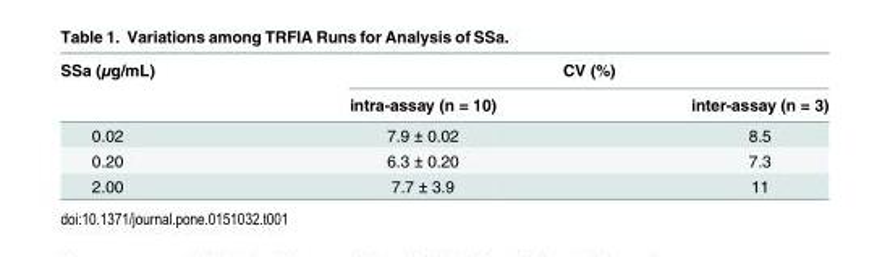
<table><thead><tr><td rowspan="2">SSa (μg/mL)</td><td colspan="2">CV (%)</td></tr><tr><td>intra-assay (n = 10)</td><td>inter-assay (n = 3)</td></tr></thead><tbody><tr><td>0.02</td><td>7.9 ± 0.02</td><td>8.5</td></tr><tr><td>0.20</td><td>6.3 ± 0.20</td><td>7.3</td></tr><tr><td>2.00</td><td>7.7 ± 3.9</td><td>11</td></tr></tbody></table>